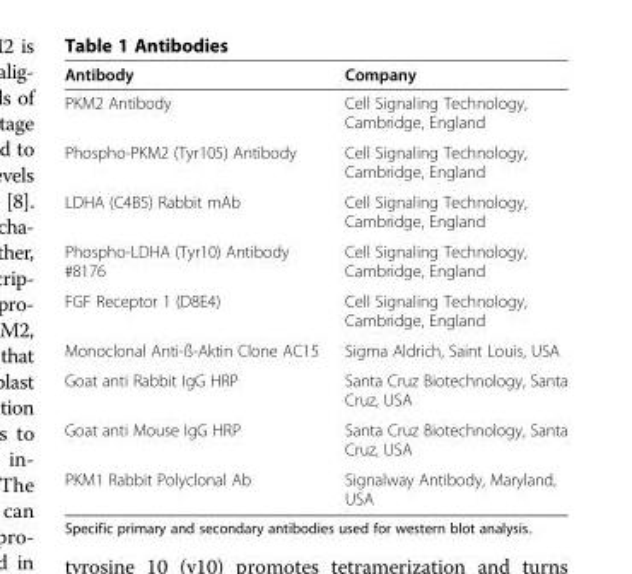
<table><thead><tr><td>Antibody</td><td>Company</td></tr></thead><tbody><tr><td>PKM2 Antibody</td><td>Cell Signaling Technology, Cambridge, England</td></tr><tr><td>Phospho-PKM2 (Tyr105) Antibody</td><td>Cell Signaling Technology, Cambridge, England</td></tr><tr><td>LDHA (C4B5) Rabbit mAb</td><td>Cell Signaling Technology, Cambridge, England</td></tr><tr><td>Phospho-LDHA (Tyr10) Antibody #8176</td><td>Cell Signaling Technology, Cambridge, England</td></tr><tr><td>FGF Receptor 1 (D8E4)</td><td>Cell Signaling Technology, Cambridge, England</td></tr><tr><td>Monoclonal Anti-ß-Aktin Clone AC15</td><td>Sigma Aldrich, Saint Louis, USA</td></tr><tr><td>Goat anti Rabbit IgG HRP</td><td>Santa Cruz Biotechnology, Santa Cruz, USA</td></tr><tr><td>Goat anti Mouse IgG HRP</td><td>Santa Cruz Biotechnology, Santa Cruz, USA</td></tr><tr><td>PKM1 Rabbit Polyclonal Ab</td><td>Signalway Antibody, Maryland, USA</td></tr></tbody></table>